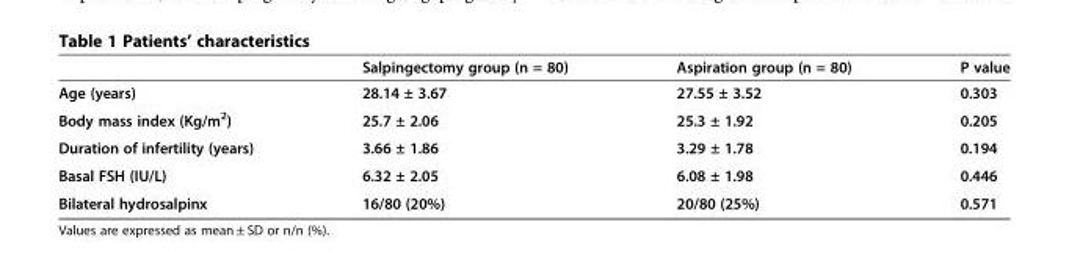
<table><thead><tr><td></td><td>Salpingectomy group (n = 80)</td><td>Aspiration group (n = 80)</td><td>P value</td></tr></thead><tbody><tr><td>Age (years)</td><td>28.14 ± 3.67</td><td>27.55 ± 3.52</td><td>0.303</td></tr><tr><td>Body mass index (Kg/m<sup>2</sup>)</td><td>25.7 ± 2.06</td><td>25.3 ± 1.92</td><td>0.205</td></tr><tr><td>Duration of infertility (years)</td><td>3.66 ± 1.86</td><td>3.29 ± 1.78</td><td>0.194</td></tr><tr><td>Basal FSH (IU/L)</td><td>6.32 ± 2.05</td><td>6.08 ± 1.98</td><td>0.446</td></tr><tr><td>Bilateral hydrosalpinx</td><td>16/80 (20%)</td><td>20/80 (25%)</td><td>0.571</td></tr></tbody></table>